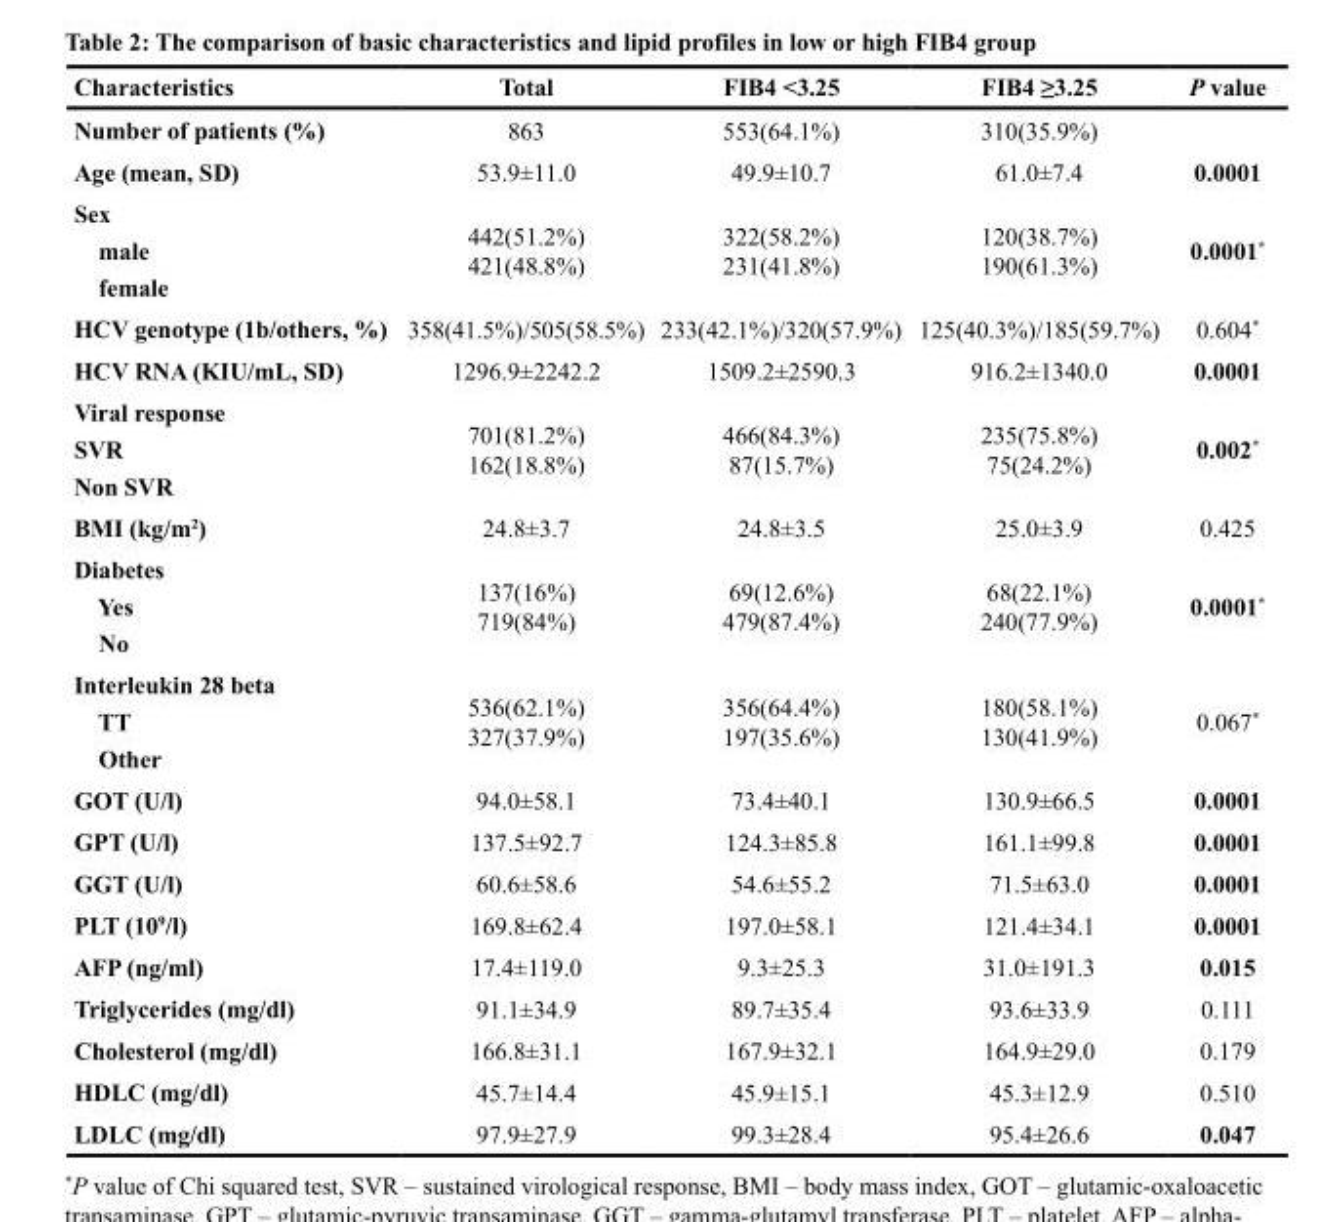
<table><thead><tr><td>Characteristics</td><td>Total</td><td>FIB4 &lt;3.25</td><td>FIB4 ≥3.25</td><td>P value</td></tr></thead><tbody><tr><td>Number of patients (%)</td><td>863</td><td>553(64.1%)</td><td>310(35.9%)</td><td></td></tr><tr><td>Age (mean, SD)</td><td>53.9±11.0</td><td>49.9±10.7</td><td>61.0±7.4</td><td>0.0001</td></tr><tr><td>Sex male female</td><td>442(51.2%) 421(48.8%)</td><td>322(58.2%) 231(41.8%)</td><td>120(38.7%) 190(61.3%)</td><td>0.0001*</td></tr><tr><td>HCV genotype (1b/others, %)</td><td>358(41.5%)/505(58.5%)</td><td>233(42.1%)/320(57.9%)</td><td>125(40.3%)/185(59.7%)</td><td>0.604*</td></tr><tr><td>HCV RNA (KIU/mL, SD)</td><td>1296.9±2242.2</td><td>1509.2±2590.3</td><td>916.2±1340.0</td><td>0.0001</td></tr><tr><td>Viral response SVR Non SVR</td><td>701(81.2%) 162(18.8%)</td><td>466(84.3%) 87(15.7%)</td><td>235(75.8%) 75(24.2%)</td><td>0.002*</td></tr><tr><td>BMI (kg/m<sup>2</sup>)</td><td>24.8±3.7</td><td>24.8±3.5</td><td>25.0±3.9</td><td>0.425</td></tr><tr><td>Diabetes Yes No</td><td>137(16%) 719(84%)</td><td>69(12.6%) 479(87.4%)</td><td>68(22.1%) 240(77.9%)</td><td>0.0001*</td></tr><tr><td>Interleukin 28 beta TT Other</td><td>536(62.1%) 327(37.9%)</td><td>356(64.4%) 197(35.6%)</td><td>180(58.1%) 130(41.9%)</td><td>0.067*</td></tr><tr><td>GOT (U/l)</td><td>94.0±58.1</td><td>73.4±40.1</td><td>130.9±66.5</td><td>0.0001</td></tr><tr><td>GPT (U/l)</td><td>137.5±92.7</td><td>124.3±85.8</td><td>161.1±99.8</td><td>0.0001</td></tr><tr><td>GGT (U/l)</td><td>60.6±58.6</td><td>54.6±55.2</td><td>71.5±63.0</td><td>0.0001</td></tr><tr><td>PLT (10<sup>9</sup>/l)</td><td>169.8±62.4</td><td>197.0±58.1</td><td>121.4±34.1</td><td>0.0001</td></tr><tr><td>AFP (ng/ml)</td><td>17.4±119.0</td><td>9.3±25.3</td><td>31.0±191.3</td><td>0.015</td></tr><tr><td>Triglycerides (mg/dl)</td><td>91.1±34.9</td><td>89.7±35.4</td><td>93.6±33.9</td><td>0.111</td></tr><tr><td>Cholesterol (mg/dl)</td><td>166.8±31.1</td><td>167.9±32.1</td><td>164.9±29.0</td><td>0.179</td></tr><tr><td>HDLC (mg/dl)</td><td>45.7±14.4</td><td>45.9±15.1</td><td>45.3±12.9</td><td>0.510</td></tr><tr><td>LDLC (mg/dl)</td><td>97.9±27.9</td><td>99.3±28.4</td><td>95.4±26.6</td><td>0.047</td></tr></tbody></table>